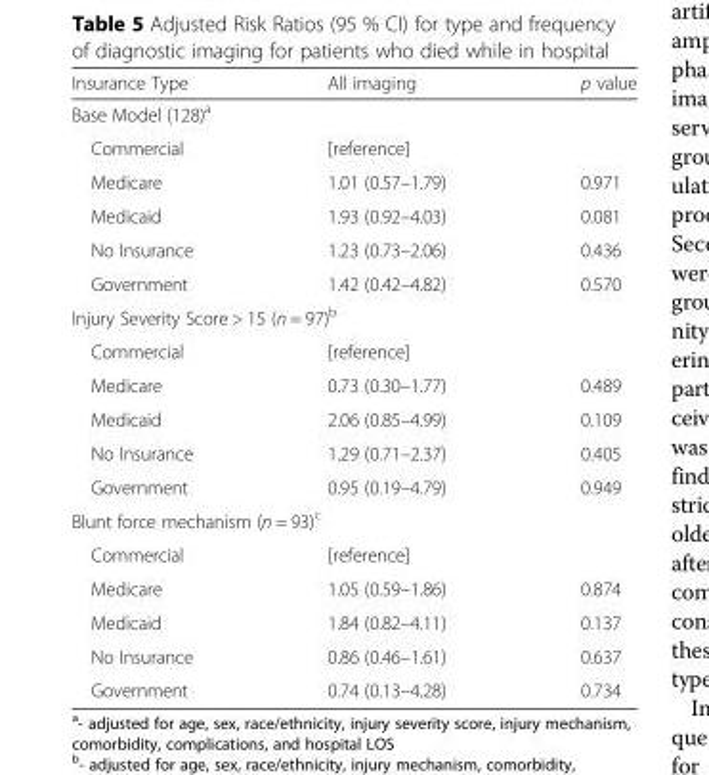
<table><thead><tr><td>Insurance Type</td><td>All imaging</td><td>p value</td></tr></thead><tbody><tr><td colspan="3">Base Model (128)<sup>a</sup></td></tr><tr><td>Commercial</td><td>[reference]</td><td></td></tr><tr><td>Medicare</td><td>1.01 (0.57–1.79)</td><td>0.971</td></tr><tr><td>Medicaid</td><td>1.93 (0.92–4.03)</td><td>0.081</td></tr><tr><td>No Insurance</td><td>1.23 (0.73–2.06)</td><td>0.436</td></tr><tr><td>Government</td><td>1.42 (0.42–4.82)</td><td>0.570</td></tr><tr><td colspan="3">Injury Severity Score &gt; 15 (n = 97)<sup>b</sup></td></tr><tr><td>Commercial</td><td>[reference]</td><td></td></tr><tr><td>Medicare</td><td>0.73 (0.30–1.77)</td><td>0.489</td></tr><tr><td>Medicaid</td><td>2.06 (0.85–4.99)</td><td>0.109</td></tr><tr><td>No Insurance</td><td>1.29 (0.71–2.37)</td><td>0.405</td></tr><tr><td>Government</td><td>0.95 (0.19–4.79)</td><td>0.949</td></tr><tr><td colspan="3">Blunt force mechanism (n = 93)<sup>c</sup></td></tr><tr><td>Commercial</td><td>[reference]</td><td></td></tr><tr><td>Medicare</td><td>1.05 (0.59–1.86)</td><td>0.874</td></tr><tr><td>Medicaid</td><td>1.84 (0.82–4.11)</td><td>0.137</td></tr><tr><td>No Insurance</td><td>0.86 (0.46–1.61)</td><td>0.637</td></tr><tr><td>Government</td><td>0.74 (0.13–4.28)</td><td>0.734</td></tr></tbody></table>